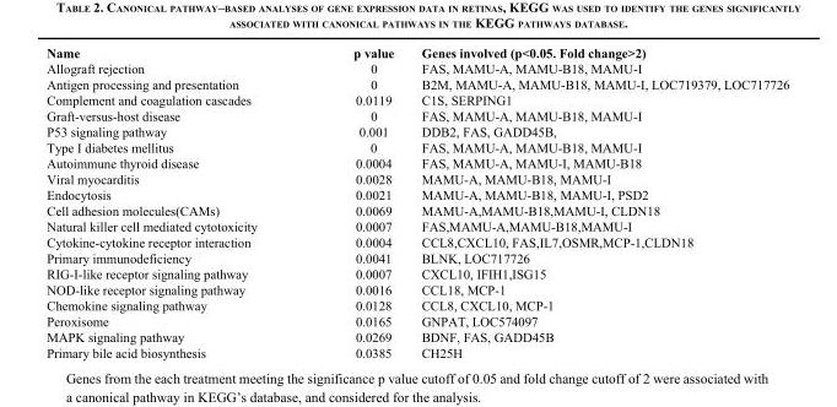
<table><thead><tr><td>Name</td><td>p value</td><td>Genes involved (p&lt;0.05. Fold change&gt;2)</td></tr></thead><tbody><tr><td>Allograft rejection</td><td>0</td><td>FAS, MAMU-A, MAMU-B18, MAMU-I</td></tr><tr><td>Antigen processing and presentation</td><td>0</td><td>B2M, MAMU-A, MAMU-B18, MAMU-I, LOC719379, LOC717726</td></tr><tr><td>Complement and coagulation cascades</td><td>0.0119</td><td>C1S, SERPING1</td></tr><tr><td>Graft-versus-host disease</td><td>0</td><td>FAS, MAMU-A, MAMU-B18, MAMU-I</td></tr><tr><td>P53 signaling pathway</td><td>0.001</td><td>DDB2, FAS, GADD45B,</td></tr><tr><td>Type I diabetes mellitus</td><td>0</td><td>FAS, MAMU-A, MAMU-B18, MAMU-I</td></tr><tr><td>Autoimmune thyroid disease</td><td>0.0004</td><td>FAS, MAMU-A, MAMU-I, MAMU-B18</td></tr><tr><td>Viral myocarditis</td><td>0.0028</td><td>MAMU-A, MAMU-B18, MAMU-I</td></tr><tr><td>Endocytosis</td><td>0.0021</td><td>MAMU-A, MAMU-B18, MAMU-I, PSD2</td></tr><tr><td>Cell adhesion molecules(CAMs)</td><td>0.0069</td><td>MAMU-A,MAMU-B18,MAMU-I, CLDN18</td></tr><tr><td>Natural killer cell mediated cytotoxicity</td><td>0.0007</td><td>FAS,MAMU-A,MAMU-B18,MAMU-I</td></tr><tr><td>Cytokine-cytokine receptor interaction</td><td>0.0004</td><td>CCL8,CXCL10, FAS,IL7,OSMR,MCP-1,CLDN18</td></tr><tr><td>Primary immunodeficiency</td><td>0.0041</td><td>BLNK, LOC717726</td></tr><tr><td>RIG-I-like receptor signaling pathway</td><td>0.0007</td><td>CXCL10, IFIH1,ISG15</td></tr><tr><td>NOD-like receptor signaling pathway</td><td>0.0016</td><td>CCL18, MCP-1</td></tr><tr><td>Chemokine signaling pathway</td><td>0.0128</td><td>CCL8, CXCL10, MCP-1</td></tr><tr><td>Peroxisome</td><td>0.0165</td><td>GNPAT, LOC574097</td></tr><tr><td>MAPK signaling pathway</td><td>0.0269</td><td>BDNF, FAS, GADD45B</td></tr><tr><td>Primary bile acid biosynthesis</td><td>0.0385</td><td>CH25H</td></tr></tbody></table>